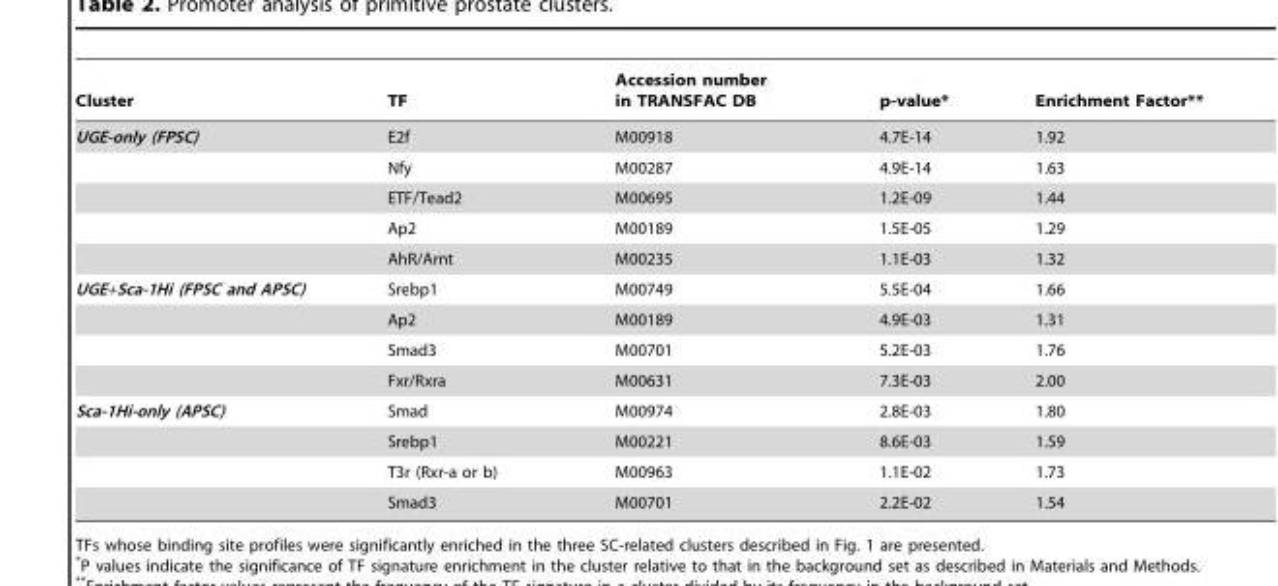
<table><thead><tr><td>Cluster</td><td>TF</td><td>Accession number in TRANSFAC DB</td><td>p-value*</td><td>Enrichment Factor**</td></tr></thead><tbody><tr><td rowspan="5">UGE-only (FPSC)</td><td>E2f</td><td>M00918</td><td>4.7E-14</td><td>1.92</td></tr><tr><td>Nfy</td><td>M00287</td><td>4.9E-14</td><td>1.63</td></tr><tr><td>ETF/Tead2</td><td>M00695</td><td>1.2E-09</td><td>1.44</td></tr><tr><td>Ap2</td><td>M00189</td><td>1.5E-05</td><td>1.29</td></tr><tr><td>AhR/Arnt</td><td>M00235</td><td>1.1E-03</td><td>1.32</td></tr><tr><td rowspan="4">UGE+Sca-1Hi (FPSC and APSC)</td><td>Srebp1</td><td>M00749</td><td>5.5E-04</td><td>1.66</td></tr><tr><td>Ap2</td><td>M00189</td><td>4.9E-03</td><td>1.31</td></tr><tr><td>Smad3</td><td>M00701</td><td>5.2E-03</td><td>1.76</td></tr><tr><td>Fxr/Rxra</td><td>M00631</td><td>7.3E-03</td><td>2.00</td></tr><tr><td rowspan="4">Sca-1Hi-only (APSC)</td><td>Smad</td><td>M00974</td><td>2.8E-03</td><td>1.80</td></tr><tr><td>Srebp1</td><td>M00221</td><td>8.6E-03</td><td>1.59</td></tr><tr><td>T3r (Rxr-a or b)</td><td>M00963</td><td>1.1E-02</td><td>1.73</td></tr><tr><td>Smad3</td><td>M00701</td><td>2.2E-02</td><td>1.54</td></tr></tbody></table>